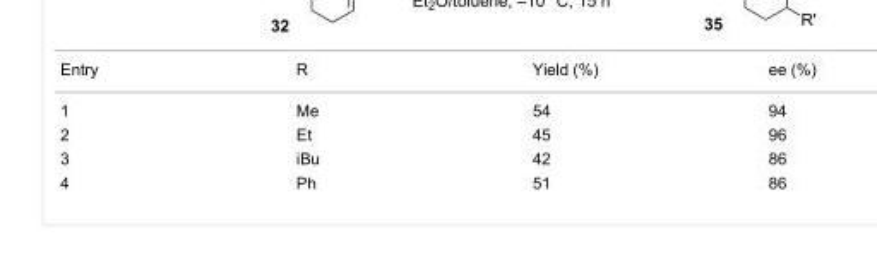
<table><tbody><tr><td>Entry</td><td>R</td><td>Yield (%)</td><td>ee (%)</td></tr><tr><td>1</td><td>Me</td><td>54</td><td>94</td></tr><tr><td>2</td><td>Et</td><td>45</td><td>96</td></tr><tr><td>3</td><td>iBu</td><td>42</td><td>86</td></tr><tr><td>4</td><td>Ph</td><td>51</td><td>86</td></tr></tbody></table>